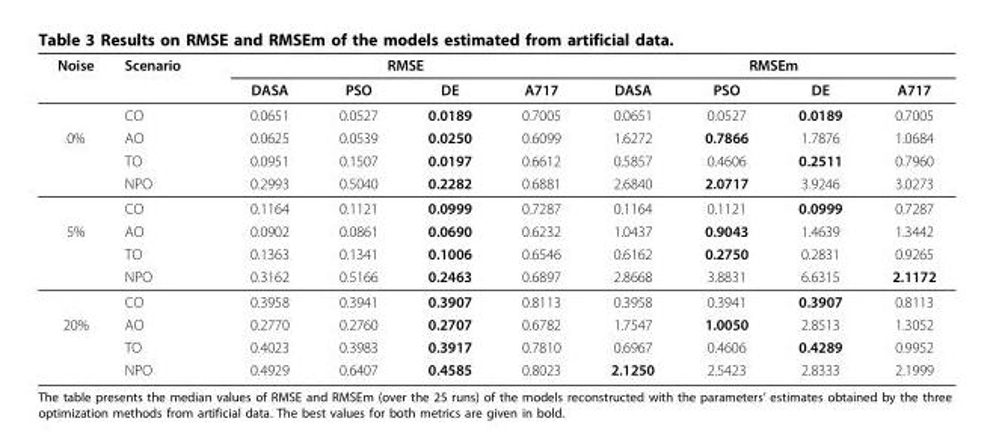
<table><thead><tr><td rowspan="2">Noise</td><td rowspan="2">Scenario</td><td colspan="4">RMSE</td><td colspan="4">RMSEm</td></tr><tr><td>DASA</td><td>PSO</td><td>DE</td><td>A717</td><td>DASA</td><td>PSO</td><td>DE</td><td>A717</td></tr></thead><tbody><tr><td></td><td>CO</td><td>0.0651</td><td>0.0527</td><td>0.0189</td><td>0.7005</td><td>0.0651</td><td>0.0527</td><td>0.0189</td><td>0.7005</td></tr><tr><td rowspan="4">0%</td><td>AO</td><td>0.0625</td><td>0.0539</td><td>0.0250</td><td>0.6099</td><td>1.6272</td><td>0.7866</td><td>1.7876</td><td>1.0684</td></tr><tr><td>TO</td><td>0.0951</td><td>0.1507</td><td>0.0197</td><td>0.6612</td><td>0.5857</td><td>0.4606</td><td>0.2511</td><td>0.7960</td></tr><tr><td>NPO</td><td>0.2993</td><td>0.5040</td><td>0.2282</td><td>0.6881</td><td>2.6840</td><td>2.0717</td><td>3.9246</td><td>3.0273</td></tr><tr><td>CO</td><td>0.1164</td><td>0.1121</td><td>0.0999</td><td>0.7287</td><td>0.1164</td><td>0.1121</td><td>0.0999</td><td>0.7287</td></tr><tr><td rowspan="4">5%</td><td>AO</td><td>0.0902</td><td>0.0861</td><td>0.0690</td><td>0.6232</td><td>1.0437</td><td>0.9043</td><td>1.4639</td><td>1.3442</td></tr><tr><td>TO</td><td>0.1363</td><td>0.1341</td><td>0.1006</td><td>0.6546</td><td>0.6162</td><td>0.2750</td><td>0.2831</td><td>0.9265</td></tr><tr><td>NPO</td><td>0.3162</td><td>0.5166</td><td>0.2463</td><td>0.6897</td><td>2.8668</td><td>3.8831</td><td>6.6315</td><td>2.1172</td></tr><tr><td>CO</td><td>0.3958</td><td>0.3941</td><td>0.3907</td><td>0.8113</td><td>0.3958</td><td>0.3941</td><td>0.3907</td><td>0.8113</td></tr><tr><td rowspan="3">20%</td><td>AO</td><td>0.2770</td><td>0.2760</td><td>0.2707</td><td>0.6782</td><td>1.7547</td><td>1.0050</td><td>2.8513</td><td>1.3052</td></tr><tr><td>TO</td><td>0.4023</td><td>0.3983</td><td>0.3917</td><td>0.7810</td><td>0.6967</td><td>0.4606</td><td>0.4289</td><td>0.9952</td></tr><tr><td>NPO</td><td>0.4929</td><td>0.6407</td><td>0.4585</td><td>0.8023</td><td>2.1250</td><td>2.5423</td><td>2.8333</td><td>2.1999</td></tr></tbody></table>